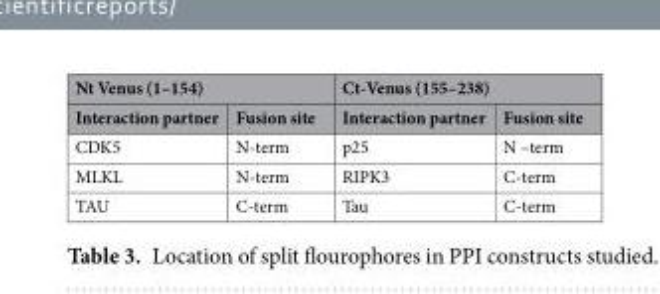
<table><thead><tr><td colspan="2">Nt Venus (1–154)</td><td colspan="2">Ct-Venus (155–238)</td></tr><tr><td>Interaction partner</td><td>Fusion site</td><td>Interaction partner</td><td>Fusion site</td></tr></thead><tbody><tr><td>CDK5</td><td>N-term</td><td>p25</td><td>N –term</td></tr><tr><td>MLKL</td><td>N-term</td><td>RIPK3</td><td>C-term</td></tr><tr><td>TAU</td><td>C-term</td><td>Tau</td><td>C-term</td></tr></tbody></table>